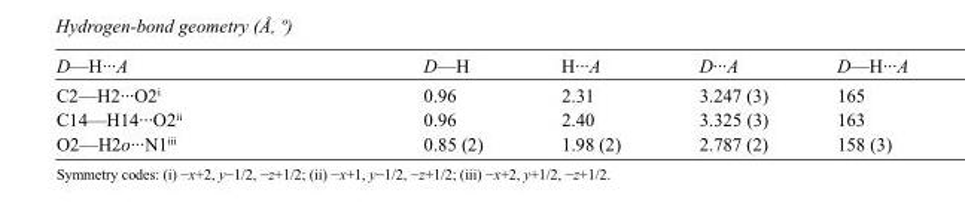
<table><tbody><tr><td>D—H···A</td><td>D—H</td><td>H···A</td><td>D···A</td><td>D—H···A</td></tr><tr><td>C2—H2···O2<sup>i</sup></td><td>0.96</td><td>2.31</td><td>3.247 (3)</td><td>165</td></tr><tr><td>C14—H14···O2<sup>ii</sup></td><td>0.96</td><td>2.40</td><td>3.325 (3)</td><td>163</td></tr><tr><td>O2—H2o···N1<sup>iii</sup></td><td>0.85 (2)</td><td>1.98 (2)</td><td>2.787 (2)</td><td>158 (3)</td></tr></tbody></table>